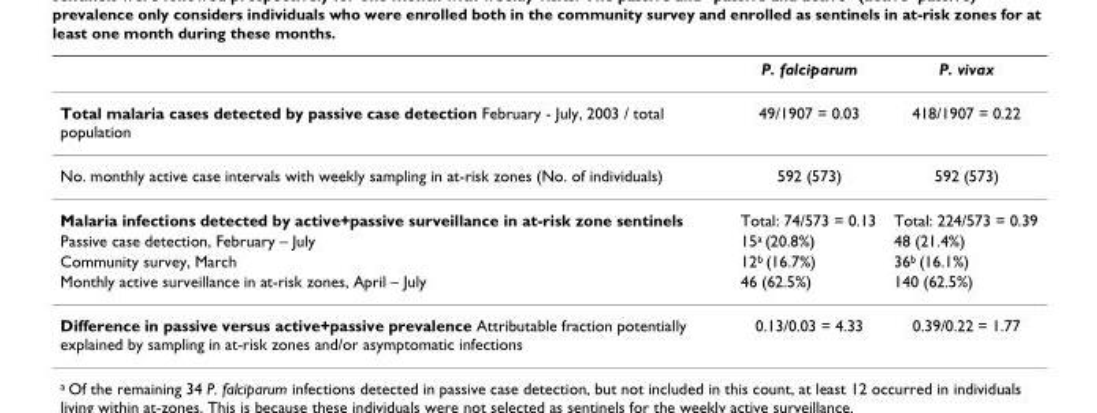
<table><thead><tr><td></td><td>P. falciparum</td><td>P. vivax</td></tr></thead><tbody><tr><td>Total malaria cases detected by passive case detection February - July, 2003 / total population</td><td>49/1907 = 0.03</td><td>418/1907 = 0.22</td></tr><tr><td>No. monthly active case intervals with weekly sampling in at-risk zones (No. of individuals)</td><td>592 (573)</td><td>592 (573)</td></tr><tr><td>Malaria infections detected by active+passive surveillance in at-risk zone sentinels</td><td>Total: 74/573 = 0.13</td><td>Total: 224/573 = 0.39</td></tr><tr><td>Passive case detection, February – July</td><td>15<sup>a</sup> (20.8%)</td><td>48 (21.4%)</td></tr><tr><td>Community survey, March</td><td>12<sup>b</sup> (16.7%)</td><td>36<sup>b</sup> (16.1%)</td></tr><tr><td>Monthly active surveillance in at-risk zones, April – July</td><td>46 (62.5%)</td><td>140 (62.5%)</td></tr><tr><td>Difference in passive versus active+passive prevalence Attributable fraction potentially explained by sampling in at-risk zones and/or asymptomatic infections</td><td>0.13/0.03 = 4.33</td><td>0.39/0.22 = 1.77</td></tr></tbody></table>